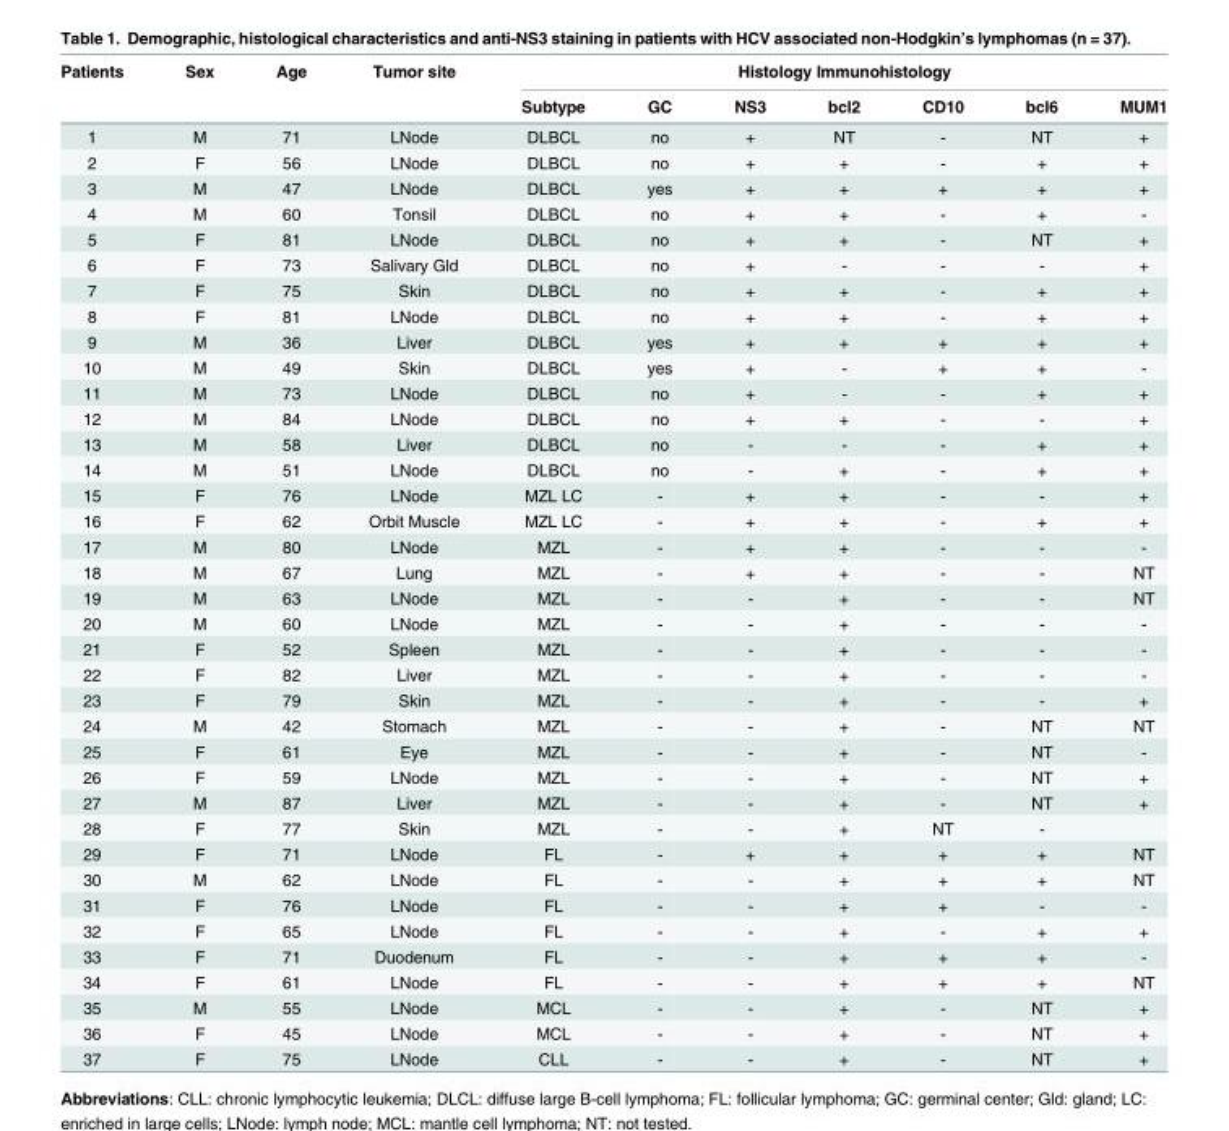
<table><thead><tr><td rowspan="2">Patients</td><td rowspan="2">Sex</td><td rowspan="2">Age</td><td rowspan="2">Tumor site</td><td colspan="7">Histology Immunohistology</td></tr><tr><td>Subtype</td><td>GC</td><td>NS3</td><td>bcl2</td><td>CD10</td><td>bcl6</td><td>MUM1</td></tr></thead><tbody><tr><td>1</td><td>M</td><td>71</td><td>LNode</td><td>DLBCL</td><td>no</td><td>+</td><td>NT</td><td>-</td><td>NT</td><td>+</td></tr><tr><td>2</td><td>F</td><td>56</td><td>LNode</td><td>DLBCL</td><td>no</td><td>+</td><td>+</td><td>-</td><td>+</td><td>+</td></tr><tr><td>3</td><td>M</td><td>47</td><td>LNode</td><td>DLBCL</td><td>yes</td><td>+</td><td>+</td><td>+</td><td>+</td><td>+</td></tr><tr><td>4</td><td>M</td><td>60</td><td>Tonsil</td><td>DLBCL</td><td>no</td><td>+</td><td>+</td><td>-</td><td>+</td><td>-</td></tr><tr><td>5</td><td>F</td><td>81</td><td>LNode</td><td>DLBCL</td><td>no</td><td>+</td><td>+</td><td>-</td><td>NT</td><td>+</td></tr><tr><td>6</td><td>F</td><td>73</td><td>Salivary Gld</td><td>DLBCL</td><td>no</td><td>+</td><td>-</td><td>-</td><td>-</td><td>+</td></tr><tr><td>7</td><td>F</td><td>75</td><td>Skin</td><td>DLBCL</td><td>no</td><td>+</td><td>+</td><td>-</td><td>+</td><td>+</td></tr><tr><td>8</td><td>F</td><td>81</td><td>LNode</td><td>DLBCL</td><td>no</td><td>+</td><td>+</td><td>-</td><td>+</td><td>+</td></tr><tr><td>9</td><td>M</td><td>36</td><td>Liver</td><td>DLBCL</td><td>yes</td><td>+</td><td>+</td><td>+</td><td>+</td><td>+</td></tr><tr><td>10</td><td>M</td><td>49</td><td>Skin</td><td>DLBCL</td><td>yes</td><td>+</td><td>-</td><td>+</td><td>+</td><td>-</td></tr><tr><td>11</td><td>M</td><td>73</td><td>LNode</td><td>DLBCL</td><td>no</td><td>+</td><td>-</td><td>-</td><td>+</td><td>+</td></tr><tr><td>12</td><td>M</td><td>84</td><td>LNode</td><td>DLBCL</td><td>no</td><td>+</td><td>+</td><td>-</td><td>-</td><td>+</td></tr><tr><td>13</td><td>M</td><td>58</td><td>Liver</td><td>DLBCL</td><td>no</td><td>-</td><td>-</td><td>-</td><td>+</td><td>+</td></tr><tr><td>14</td><td>M</td><td>51</td><td>LNode</td><td>DLBCL</td><td>no</td><td>-</td><td>+</td><td>-</td><td>+</td><td>+</td></tr><tr><td>15</td><td>F</td><td>76</td><td>LNode</td><td>MZL LC</td><td>-</td><td>+</td><td>+</td><td>-</td><td>-</td><td>+</td></tr><tr><td>16</td><td>F</td><td>62</td><td>Orbit Muscle</td><td>MZL LC</td><td>-</td><td>+</td><td>+</td><td>-</td><td>+</td><td>+</td></tr><tr><td>17</td><td>M</td><td>80</td><td>LNode</td><td>MZL</td><td>-</td><td>+</td><td>+</td><td>-</td><td>-</td><td>-</td></tr><tr><td>18</td><td>M</td><td>67</td><td>Lung</td><td>MZL</td><td>-</td><td>+</td><td>+</td><td>-</td><td>-</td><td>NT</td></tr><tr><td>19</td><td>M</td><td>63</td><td>LNode</td><td>MZL</td><td>-</td><td>-</td><td>+</td><td>-</td><td>-</td><td>NT</td></tr><tr><td>20</td><td>M</td><td>60</td><td>LNode</td><td>MZL</td><td>-</td><td>-</td><td>+</td><td>-</td><td>-</td><td>-</td></tr><tr><td>21</td><td>F</td><td>52</td><td>Spleen</td><td>MZL</td><td>-</td><td>-</td><td>+</td><td>-</td><td>-</td><td>-</td></tr><tr><td>22</td><td>F</td><td>82</td><td>Liver</td><td>MZL</td><td>-</td><td>-</td><td>+</td><td>-</td><td>-</td><td>-</td></tr><tr><td>23</td><td>F</td><td>79</td><td>Skin</td><td>MZL</td><td>-</td><td>-</td><td>+</td><td>-</td><td>-</td><td>+</td></tr><tr><td>24</td><td>M</td><td>42</td><td>Stomach</td><td>MZL</td><td>-</td><td>-</td><td>+</td><td>-</td><td>NT</td><td>NT</td></tr><tr><td>25</td><td>F</td><td>61</td><td>Eye</td><td>MZL</td><td>-</td><td>-</td><td>+</td><td>-</td><td>NT</td><td>-</td></tr><tr><td>26</td><td>F</td><td>59</td><td>LNode</td><td>MZL</td><td>-</td><td>-</td><td>+</td><td>-</td><td>NT</td><td>+</td></tr><tr><td>27</td><td>M</td><td>87</td><td>Liver</td><td>MZL</td><td>-</td><td>-</td><td>+</td><td>-</td><td>NT</td><td>+</td></tr><tr><td>28</td><td>F</td><td>77</td><td>Skin</td><td>MZL</td><td>-</td><td>-</td><td>+</td><td>NT</td><td>-</td><td></td></tr><tr><td>29</td><td>F</td><td>71</td><td>LNode</td><td>FL</td><td>-</td><td>+</td><td>+</td><td>+</td><td>+</td><td>NT</td></tr><tr><td>30</td><td>M</td><td>62</td><td>LNode</td><td>FL</td><td>-</td><td>-</td><td>+</td><td>+</td><td>+</td><td>NT</td></tr><tr><td>31</td><td>F</td><td>76</td><td>LNode</td><td>FL</td><td>-</td><td>-</td><td>+</td><td>+</td><td>-</td><td>-</td></tr><tr><td>32</td><td>F</td><td>65</td><td>LNode</td><td>FL</td><td>-</td><td>-</td><td>+</td><td>-</td><td>+</td><td>+</td></tr><tr><td>33</td><td>F</td><td>71</td><td>Duodenum</td><td>FL</td><td>-</td><td>-</td><td>+</td><td>+</td><td>+</td><td>-</td></tr><tr><td>34</td><td>F</td><td>61</td><td>LNode</td><td>FL</td><td>-</td><td>-</td><td>+</td><td>+</td><td>+</td><td>NT</td></tr><tr><td>35</td><td>M</td><td>55</td><td>LNode</td><td>MCL</td><td>-</td><td>-</td><td>+</td><td>-</td><td>NT</td><td>+</td></tr><tr><td>36</td><td>F</td><td>45</td><td>LNode</td><td>MCL</td><td>-</td><td>-</td><td>+</td><td>-</td><td>NT</td><td>+</td></tr><tr><td>37</td><td>F</td><td>75</td><td>LNode</td><td>CLL</td><td>-</td><td>-</td><td>+</td><td>-</td><td>NT</td><td>+</td></tr></tbody></table>